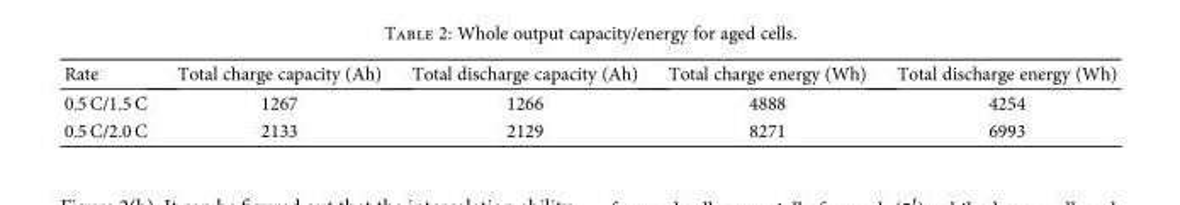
<table><thead><tr><td>Rate</td><td>Total charge capacity (Ah)</td><td>Total discharge capacity (Ah)</td><td>Total charge energy (Wh)</td><td>Total discharge energy (Wh)</td></tr></thead><tbody><tr><td>0.5 C/1.5 C</td><td>1267</td><td>1266</td><td>4888</td><td>4254</td></tr><tr><td>0.5 C/2.0 C</td><td>2133</td><td>2129</td><td>8271</td><td>6993</td></tr></tbody></table>